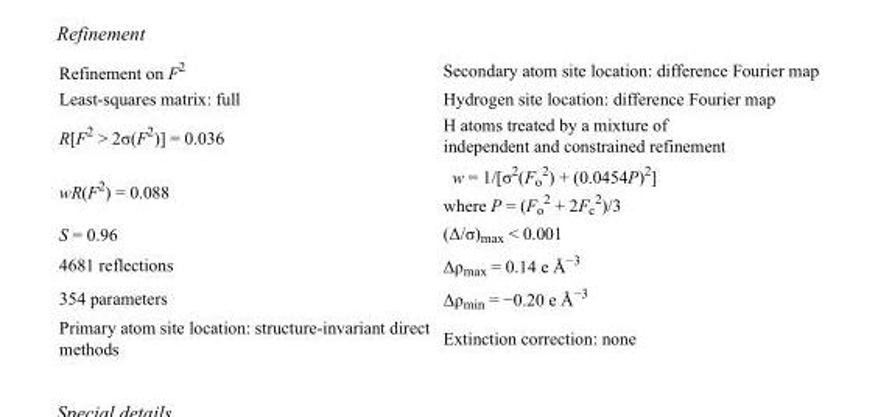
<table><tbody><tr><td>Refinement on F<sup>2</sup></td><td>Secondary atom site location: difference Fourier map</td></tr><tr><td>Least-squares matrix: full</td><td>Hydrogen site location: difference Fourier map</td></tr><tr><td>R[F<sup>2</sup> &gt; 2σ(F<sup>2</sup>)] = 0.036</td><td>H atoms treated by a mixture of independent and constrained refinement</td></tr><tr><td>wR(F<sup>2</sup>) = 0.088</td><td>w = 1/[σ<sup>2</sup>(F<sub>o</sub> <sup>2</sup>) + (0.0454P)<sup>2</sup>] where P = (F<sub>o</sub> <sup>2</sup> + 2F<sub>c</sub> <sup>2</sup>)/3</td></tr><tr><td>S = 0.96</td><td>(Δ/σ)<sub>max</sub> &lt; 0.001</td></tr><tr><td>4681 reflections</td><td>Δρ<sub>max</sub> = 0.14 e Å<sup>−3</sup></td></tr><tr><td>354 parameters</td><td>Δρ<sub>min</sub> = −0.20 e Å<sup>−3</sup></td></tr><tr><td>Primary atom site location: structure-invariant direct methods</td><td>Extinction correction: none</td></tr></tbody></table>